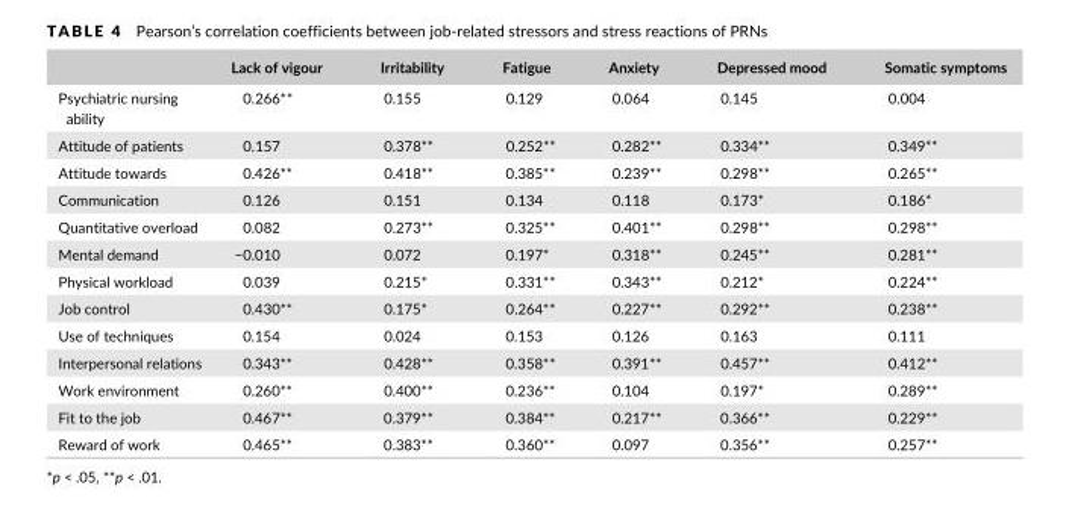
<table><thead><tr><td></td><td>Lack of vigour</td><td>Irritability</td><td>Fatigue</td><td>Anxiety</td><td>Depressed mood</td><td>Somatic symptoms</td></tr></thead><tbody><tr><td>Psychiatric nursing ability</td><td>0.266**</td><td>0.155</td><td>0.129</td><td>0.064</td><td>0.145</td><td>0.004</td></tr><tr><td>Attitude of patients</td><td>0.157</td><td>0.378**</td><td>0.252**</td><td>0.282**</td><td>0.334**</td><td>0.349**</td></tr><tr><td>Attitude towards</td><td>0.426**</td><td>0.418**</td><td>0.385**</td><td>0.239**</td><td>0.298**</td><td>0.265**</td></tr><tr><td>Communication</td><td>0.126</td><td>0.151</td><td>0.134</td><td>0.118</td><td>0.173*</td><td>0.186*</td></tr><tr><td>Quantitative overload</td><td>0.082</td><td>0.273**</td><td>0.325**</td><td>0.401**</td><td>0.298**</td><td>0.298**</td></tr><tr><td>Mental demand</td><td>−0.010</td><td>0.072</td><td>0.197*</td><td>0.318**</td><td>0.245**</td><td>0.281**</td></tr><tr><td>Physical workload</td><td>0.039</td><td>0.215*</td><td>0.331**</td><td>0.343**</td><td>0.212*</td><td>0.224**</td></tr><tr><td>Job control</td><td>0.430**</td><td>0.175*</td><td>0.264**</td><td>0.227**</td><td>0.292**</td><td>0.238**</td></tr><tr><td>Use of techniques</td><td>0.154</td><td>0.024</td><td>0.153</td><td>0.126</td><td>0.163</td><td>0.111</td></tr><tr><td>Interpersonal relations</td><td>0.343**</td><td>0.428**</td><td>0.358**</td><td>0.391**</td><td>0.457**</td><td>0.412**</td></tr><tr><td>Work environment</td><td>0.260**</td><td>0.400**</td><td>0.236**</td><td>0.104</td><td>0.197*</td><td>0.289**</td></tr><tr><td>Fit to the job</td><td>0.467**</td><td>0.379**</td><td>0.384**</td><td>0.217**</td><td>0.366**</td><td>0.229**</td></tr><tr><td>Reward of work</td><td>0.465**</td><td>0.383**</td><td>0.360**</td><td>0.097</td><td>0.356**</td><td>0.257**</td></tr></tbody></table>